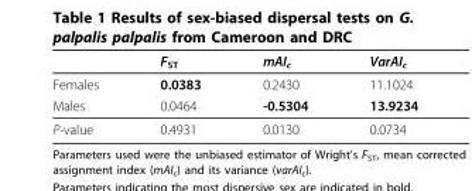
<table><thead><tr><td></td><td>F<sub>ST</sub></td><td>mAI<sub>c</sub></td><td>VarAI<sub>c</sub></td></tr></thead><tbody><tr><td>Females</td><td>0.0383</td><td>0.2430</td><td>11.1024</td></tr><tr><td>Males</td><td>0.0464</td><td>-0.5304</td><td>13.9234</td></tr><tr><td>P-value</td><td>0.4931</td><td>0.0130</td><td>0.0734</td></tr></tbody></table>